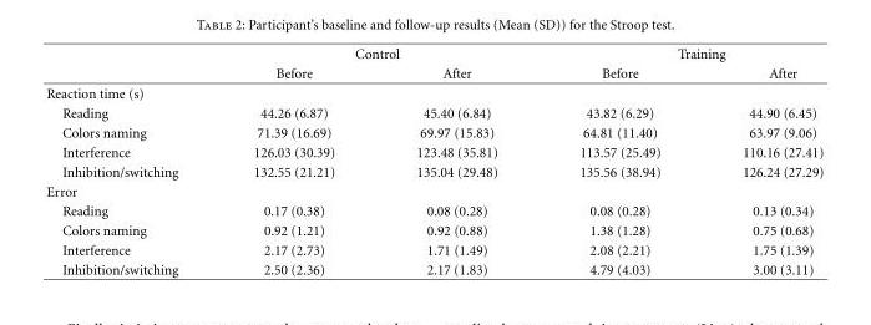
<table><thead><tr><td rowspan="2"></td><td colspan="2">Control</td><td colspan="2">Training</td></tr><tr><td>Before</td><td>After</td><td>Before</td><td>After</td></tr></thead><tbody><tr><td colspan="5">Reaction time (s)</td></tr><tr><td>Reading</td><td>44.26 (6.87)</td><td>45.40 (6.84)</td><td>43.82 (6.29)</td><td>44.90 (6.45)</td></tr><tr><td>Colors naming</td><td>71.39 (16.69)</td><td>69.97 (15.83)</td><td>64.81 (11.40)</td><td>63.97 (9.06)</td></tr><tr><td>Interference</td><td>126.03 (30.39)</td><td>123.48 (35.81)</td><td>113.57 (25.49)</td><td>110.16 (27.41)</td></tr><tr><td>Inhibition/switching</td><td>132.55 (21.21)</td><td>135.04 (29.48)</td><td>135.56 (38.94)</td><td>126.24 (27.29)</td></tr><tr><td colspan="5">Error</td></tr><tr><td>Reading</td><td>0.17 (0.38)</td><td>0.08 (0.28)</td><td>0.08 (0.28)</td><td>0.13 (0.34)</td></tr><tr><td>Colors naming</td><td>0.92 (1.21)</td><td>0.92 (0.88)</td><td>1.38 (1.28)</td><td>0.75 (0.68)</td></tr><tr><td>Interference</td><td>2.17 (2.73)</td><td>1.71 (1.49)</td><td>2.08 (2.21)</td><td>1.75 (1.39)</td></tr><tr><td>Inhibition/switching</td><td>2.50 (2.36)</td><td>2.17 (1.83)</td><td>4.79 (4.03)</td><td>3.00 (3.11)</td></tr></tbody></table>